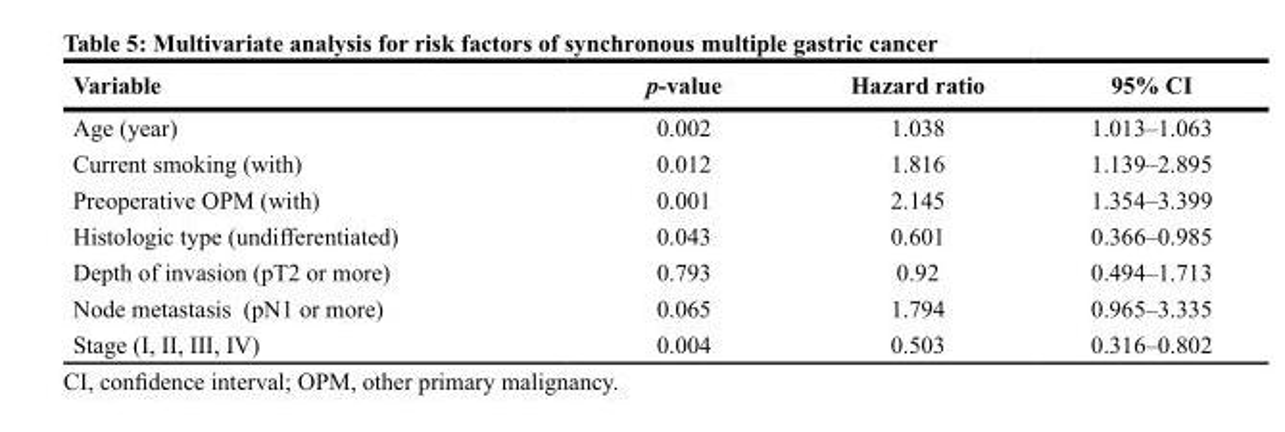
<table><thead><tr><td>Variable</td><td>p-value</td><td>Hazard ratio</td><td>95% CI</td></tr></thead><tbody><tr><td>Age (year)</td><td>0.002</td><td>1.038</td><td>1.013–1.063</td></tr><tr><td>Current smoking (with)</td><td>0.012</td><td>1.816</td><td>1.139–2.895</td></tr><tr><td>Preoperative OPM (with)</td><td>0.001</td><td>2.145</td><td>1.354–3.399</td></tr><tr><td>Histologic type (undifferentiated)</td><td>0.043</td><td>0.601</td><td>0.366–0.985</td></tr><tr><td>Depth of invasion (pT2 or more)</td><td>0.793</td><td>0.92</td><td>0.494–1.713</td></tr><tr><td>Node metastasis (pN1 or more)</td><td>0.065</td><td>1.794</td><td>0.965–3.335</td></tr><tr><td>Stage (I, II, III, IV)</td><td>0.004</td><td>0.503</td><td>0.316–0.802</td></tr></tbody></table>